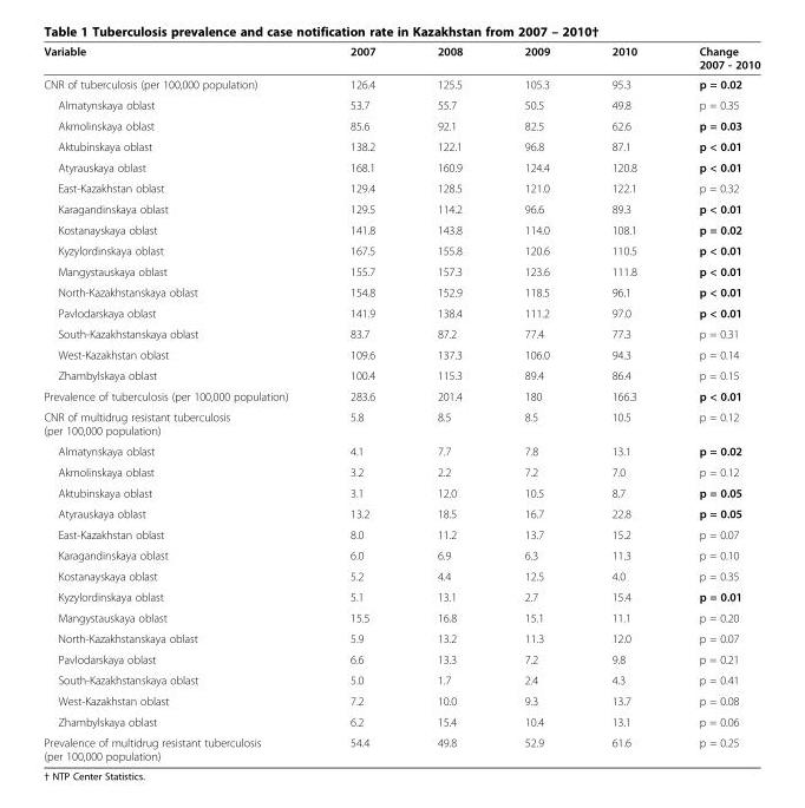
<table><thead><tr><td>Variable</td><td>2007</td><td>2008</td><td>2009</td><td>2010</td><td>Change 2007 - 2010</td></tr></thead><tbody><tr><td>CNR of tuberculosis (per 100,000 population)</td><td>126.4</td><td>125.5</td><td>105.3</td><td>95.3</td><td>p = 0.02</td></tr><tr><td>Almatynskaya oblast</td><td>53.7</td><td>55.7</td><td>50.5</td><td>49.8</td><td>p = 0.35</td></tr><tr><td>Akmolinskaya oblast</td><td>85.6</td><td>92.1</td><td>82.5</td><td>62.6</td><td>p = 0.03</td></tr><tr><td>Aktubinskaya oblast</td><td>138.2</td><td>122.1</td><td>96.8</td><td>87.1</td><td>p &lt; 0.01</td></tr><tr><td>Atyrauskaya oblast</td><td>168.1</td><td>160.9</td><td>124.4</td><td>120.8</td><td>p &lt; 0.01</td></tr><tr><td>East-Kazakhstan oblast</td><td>129.4</td><td>128.5</td><td>121.0</td><td>122.1</td><td>p = 0.32</td></tr><tr><td>Karagandinskaya oblast</td><td>129.5</td><td>114.2</td><td>96.6</td><td>89.3</td><td>p &lt; 0.01</td></tr><tr><td>Kostanayskaya oblast</td><td>141.8</td><td>143.8</td><td>114.0</td><td>108.1</td><td>p = 0.02</td></tr><tr><td>Kyzylordinskaya oblast</td><td>167.5</td><td>155.8</td><td>120.6</td><td>110.5</td><td>p &lt; 0.01</td></tr><tr><td>Mangystauskaya oblast</td><td>155.7</td><td>157.3</td><td>123.6</td><td>111.8</td><td>p &lt; 0.01</td></tr><tr><td>North-Kazakhstanskaya oblast</td><td>154.8</td><td>152.9</td><td>118.5</td><td>96.1</td><td>p &lt; 0.01</td></tr><tr><td>Pavlodarskaya oblast</td><td>141.9</td><td>138.4</td><td>111.2</td><td>97.0</td><td>p &lt; 0.01</td></tr><tr><td>South-Kazakhstanskaya oblast</td><td>83.7</td><td>87.2</td><td>77.4</td><td>77.3</td><td>p = 0.31</td></tr><tr><td>West-Kazakhstan oblast</td><td>109.6</td><td>137.3</td><td>106.0</td><td>94.3</td><td>p = 0.14</td></tr><tr><td>Zhambylskaya oblast</td><td>100.4</td><td>115.3</td><td>89.4</td><td>86.4</td><td>p = 0.15</td></tr><tr><td>Prevalence of tuberculosis (per 100,000 population)</td><td>283.6</td><td>201.4</td><td>180</td><td>166.3</td><td>p &lt; 0.01</td></tr><tr><td>CNR of multidrug resistant tuberculosis (per 100,000 population)</td><td>5.8</td><td>8.5</td><td>8.5</td><td>10.5</td><td>p = 0.12</td></tr><tr><td>Almatynskaya oblast</td><td>4.1</td><td>7.7</td><td>7.8</td><td>13.1</td><td>p = 0.02</td></tr><tr><td>Akmolinskaya oblast</td><td>3.2</td><td>2.2</td><td>7.2</td><td>7.0</td><td>p = 0.12</td></tr><tr><td>Aktubinskaya oblast</td><td>3.1</td><td>12.0</td><td>10.5</td><td>8.7</td><td>p = 0.05</td></tr><tr><td>Atyrauskaya oblast</td><td>13.2</td><td>18.5</td><td>16.7</td><td>22.8</td><td>p = 0.05</td></tr><tr><td>East-Kazakhstan oblast</td><td>8.0</td><td>11.2</td><td>13.7</td><td>15.2</td><td>p = 0.07</td></tr><tr><td>Karagandinskaya oblast</td><td>6.0</td><td>6.9</td><td>6.3</td><td>11.3</td><td>p = 0.10</td></tr><tr><td>Kostanayskaya oblast</td><td>5.2</td><td>4.4</td><td>12.5</td><td>4.0</td><td>p = 0.35</td></tr><tr><td>Kyzylordinskaya oblast</td><td>5.1</td><td>13.1</td><td>2.7</td><td>15.4</td><td>p = 0.01</td></tr><tr><td>Mangystauskaya oblast</td><td>15.5</td><td>16.8</td><td>15.1</td><td>11.1</td><td>p = 0.20</td></tr><tr><td>North-Kazakhstanskaya oblast</td><td>5.9</td><td>13.2</td><td>11.3</td><td>12.0</td><td>p = 0.07</td></tr><tr><td>Pavlodarskaya oblast</td><td>6.6</td><td>13.3</td><td>7.2</td><td>9.8</td><td>p = 0.21</td></tr><tr><td>South-Kazakhstanskaya oblast</td><td>5.0</td><td>1.7</td><td>2.4</td><td>4.3</td><td>p = 0.41</td></tr><tr><td>West-Kazakhstan oblast</td><td>7.2</td><td>10.0</td><td>9.3</td><td>13.7</td><td>p = 0.08</td></tr><tr><td>Zhambylskaya oblast</td><td>6.2</td><td>15.4</td><td>10.4</td><td>13.1</td><td>p = 0.06</td></tr><tr><td>Prevalence of multidrug resistant tuberculosis (per 100,000 population)</td><td>54.4</td><td>49.8</td><td>52.9</td><td>61.6</td><td>p = 0.25</td></tr></tbody></table>